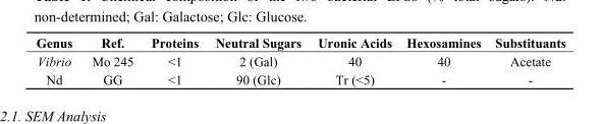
<table><thead><tr><td>Genus</td><td>Ref.</td><td>Proteins</td><td>Neutral Sugars</td><td>Uronic Acids</td><td>Hexosamines</td><td>Substituants</td></tr></thead><tbody><tr><td>Vibrio</td><td>Mo 245</td><td>&lt;1</td><td>2 (Gal)</td><td>40</td><td>40</td><td>Acetate</td></tr><tr><td>Nd</td><td>GG</td><td>&lt;1</td><td>90 (Glc)</td><td>Tr (&lt;5)</td><td>-</td><td>-</td></tr></tbody></table>